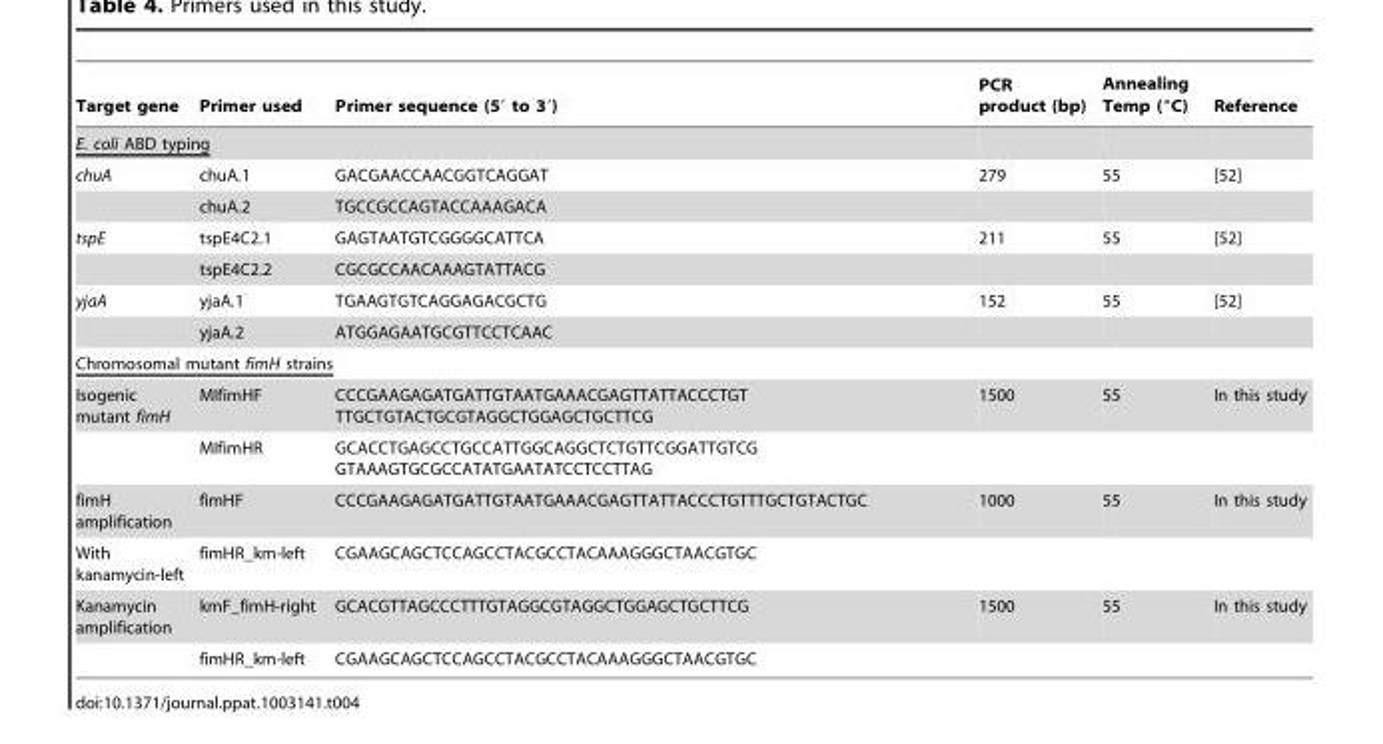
<table><thead><tr><td>Target gene</td><td>Primer used</td><td>Primer sequence (5′ to 3′)</td><td>PCR product (bp)</td><td>Annealing Temp (°C)</td><td>Reference</td></tr></thead><tbody><tr><td colspan="6">E. coli ABD typing</td></tr><tr><td rowspan="2">chuA</td><td>chuA.1</td><td>GACGAACCAACGGTCAGGAT</td><td>279</td><td>55</td><td>[52]</td></tr><tr><td>chuA.2</td><td>TGCCGCCAGTACCAAAGACA</td><td></td><td></td><td></td></tr><tr><td rowspan="2">tspE</td><td>tspE4C2.1</td><td>GAGTAATGTCGGGGCATTCA</td><td>211</td><td>55</td><td>[52]</td></tr><tr><td>tspE4C2.2</td><td>CGCGCCAACAAAGTATTACG</td><td></td><td></td><td></td></tr><tr><td rowspan="2">yjaA</td><td>yjaA.1</td><td>TGAAGTGTCAGGAGACGCTG</td><td>152</td><td>55</td><td>[52]</td></tr><tr><td>yjaA.2</td><td>ATGGAGAATGCGTTCCTCAAC</td><td></td><td></td><td></td></tr><tr><td colspan="6">Chromosomal mutant fimH strains</td></tr><tr><td rowspan="2">Isogenic mutant fimH</td><td>MIfimHF</td><td>CCCGAAGAGATGATTGTAATGAAACGAGTTATTACCCTGT TTGCTGTACTGCGTAGGCTGGAGCTGCTTCG</td><td>1500</td><td>55</td><td>In this study</td></tr><tr><td>MIfimHR</td><td>GCACCTGAGCCTGCCATTGGCAGGCTCTGTTCGGATTGTCG GTAAAGTGCGCCATATGAATATCCTCCTTAG</td><td></td><td></td><td></td></tr><tr><td>fimH amplification</td><td>fimHF</td><td>CCCGAAGAGATGATTGTAATGAAACGAGTTATTACCCTGTTTGCTGTACTGC</td><td>1000</td><td>55</td><td>In this study</td></tr><tr><td>With kanamycin-left</td><td>fimHR_km-left</td><td>CGAAGCAGCTCCAGCCTACGCCTACAAAGGGCTAACGTGC</td><td></td><td></td><td></td></tr><tr><td rowspan="2">Kanamycin amplification</td><td>kmF_fimH-right</td><td>GCACGTTAGCCCTTTGTAGGCGTAGGCTGGAGCTGCTTCG</td><td>1500</td><td>55</td><td>In this study</td></tr><tr><td>fimHR_km-left</td><td>CGAAGCAGCTCCAGCCTACGCCTACAAAGGGCTAACGTGC</td><td></td><td></td><td></td></tr></tbody></table>